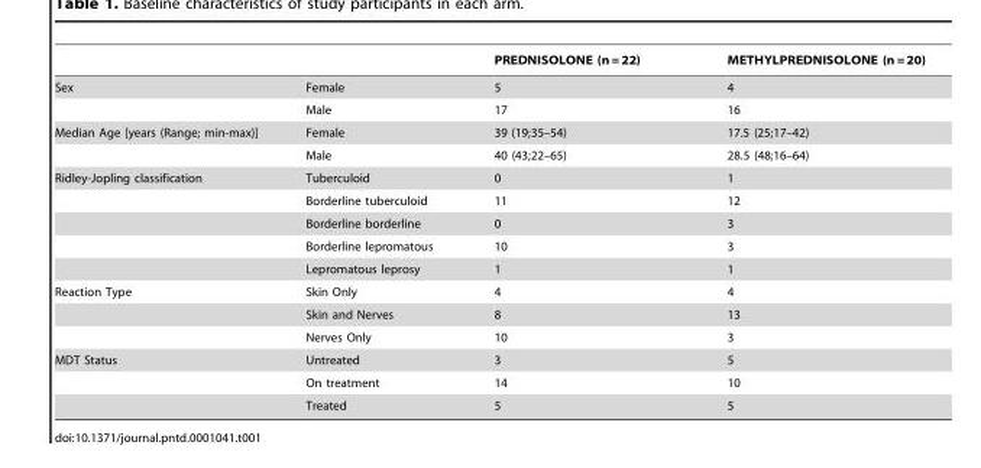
<table><thead><tr><td></td><td></td><td>PREDNISOLONE (n = 22)</td><td>METHYLPREDNISOLONE (n = 20)</td></tr></thead><tbody><tr><td rowspan="2">Sex</td><td>Female</td><td>5</td><td>4</td></tr><tr><td>Male</td><td>17</td><td>16</td></tr><tr><td rowspan="2">Median Age [years (Range; min-max)]</td><td>Female</td><td>39 (19;35–54)</td><td>17.5 (25;17–42)</td></tr><tr><td>Male</td><td>40 (43;22–65)</td><td>28.5 (48;16–64)</td></tr><tr><td rowspan="5">Ridley-Jopling classification</td><td>Tuberculoid</td><td>0</td><td>1</td></tr><tr><td>Borderline tuberculoid</td><td>11</td><td>12</td></tr><tr><td>Borderline borderline</td><td>0</td><td>3</td></tr><tr><td>Borderline lepromatous</td><td>10</td><td>3</td></tr><tr><td>Lepromatous leprosy</td><td>1</td><td>1</td></tr><tr><td rowspan="3">Reaction Type</td><td>Skin Only</td><td>4</td><td>4</td></tr><tr><td>Skin and Nerves</td><td>8</td><td>13</td></tr><tr><td>Nerves Only</td><td>10</td><td>3</td></tr><tr><td rowspan="3">MDT Status</td><td>Untreated</td><td>3</td><td>5</td></tr><tr><td>On treatment</td><td>14</td><td>10</td></tr><tr><td>Treated</td><td>5</td><td>5</td></tr></tbody></table>